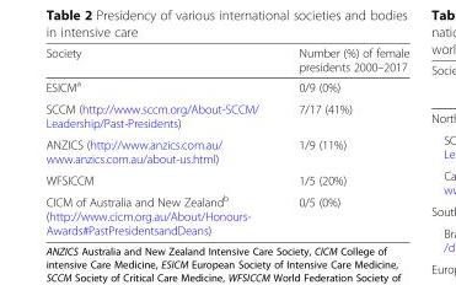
<table><thead><tr><td>Society</td><td>Number (%) of female presidents 2000–2017</td></tr></thead><tbody><tr><td>ESICM<sup>a</sup></td><td>0/9 (0%)</td></tr><tr><td>SCCM (http://www.sccm.org/About-SCCM/ Leadership/Past-Presidents)</td><td>7/17 (41%)</td></tr><tr><td>ANZICS (http://www.anzics.com.au/ www.anzics.com.au/about-us.html)</td><td>1/9 (11%)</td></tr><tr><td>WFSICCM</td><td>1/5 (20%)</td></tr><tr><td>CICM of Australia and New Zealand<sup>b</sup> (http://www.cicm.org.au/About/Honours- Awards#PastPresidentsandDeans)</td><td>0/5 (0%)</td></tr></tbody></table>